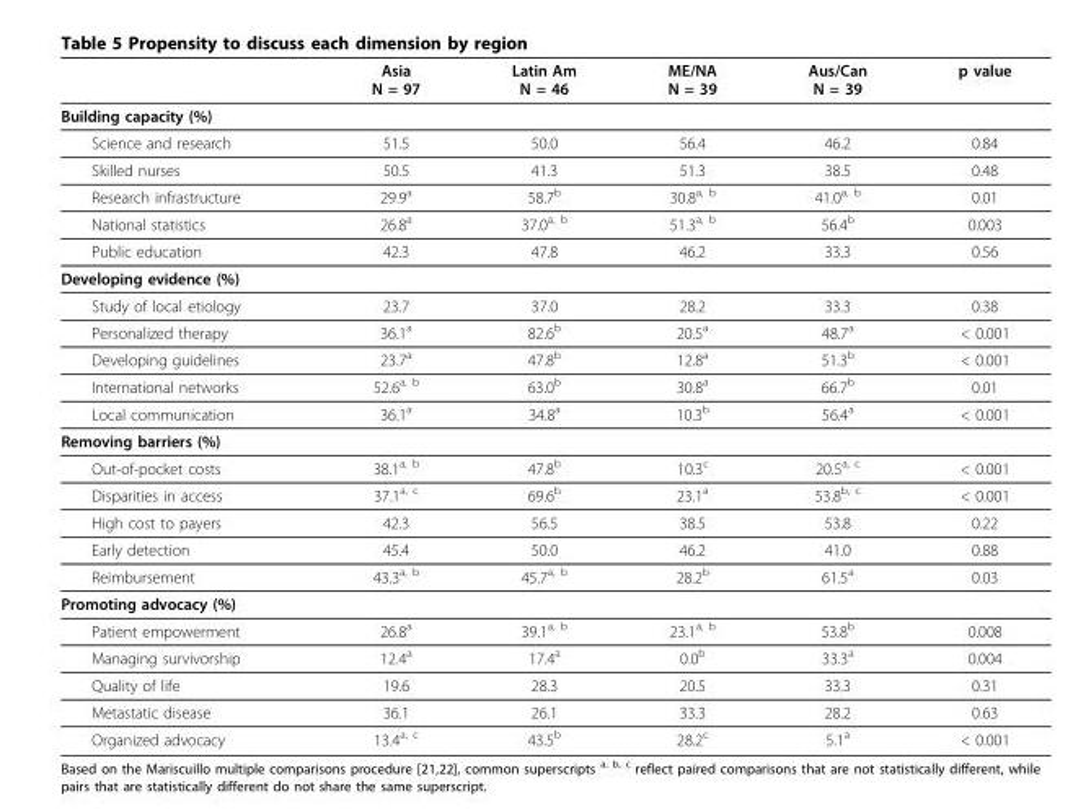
<table><thead><tr><td></td><td>Asia N = 97</td><td>Latin Am N = 46</td><td>ME/NA N = 39</td><td>Aus/Can N = 39</td><td>p value</td></tr></thead><tbody><tr><td colspan="6">Building capacity (%)</td></tr><tr><td>Science and research</td><td>51.5</td><td>50.0</td><td>56.4</td><td>46.2</td><td>0.84</td></tr><tr><td>Skilled nurses</td><td>50.5</td><td>41.3</td><td>51.3</td><td>38.5</td><td>0.48</td></tr><tr><td>Research infrastructure</td><td>29.9<sup>a</sup></td><td>58.7<sup>b</sup></td><td>30.8<sup>a, b</sup></td><td>41.0<sup>a, b</sup></td><td>0.01</td></tr><tr><td>National statistics</td><td>26.8<sup>a</sup></td><td>37.0<sup>a, b</sup></td><td>51.3<sup>a, b</sup></td><td>56.4<sup>b</sup></td><td>0.003</td></tr><tr><td>Public education</td><td>42.3</td><td>47.8</td><td>46.2</td><td>33.3</td><td>0.56</td></tr><tr><td colspan="6">Developing evidence (%)</td></tr><tr><td>Study of local etiology</td><td>23.7</td><td>37.0</td><td>28.2</td><td>33.3</td><td>0.38</td></tr><tr><td>Personalized therapy</td><td>36.1<sup>a</sup></td><td>82.6<sup>b</sup></td><td>20.5<sup>a</sup></td><td>48.7<sup>a</sup></td><td>&lt; 0.001</td></tr><tr><td>Developing guidelines</td><td>23.7<sup>a</sup></td><td>47.8<sup>b</sup></td><td>12.8<sup>a</sup></td><td>51.3<sup>b</sup></td><td>&lt; 0.001</td></tr><tr><td>International networks</td><td>52.6<sup>a, b</sup></td><td>63.0<sup>b</sup></td><td>30.8<sup>a</sup></td><td>66.7<sup>b</sup></td><td>0.01</td></tr><tr><td>Local communication</td><td>36.1<sup>a</sup></td><td>34.8<sup>a</sup></td><td>10.3<sup>b</sup></td><td>56.4<sup>a</sup></td><td>&lt; 0.001</td></tr><tr><td colspan="6">Removing barriers (%)</td></tr><tr><td>Out-of-pocket costs</td><td>38.1<sup>a, b</sup></td><td>47.8<sup>b</sup></td><td>10.3<sup>c</sup></td><td>20.5<sup>a, c</sup></td><td>&lt; 0.001</td></tr><tr><td>Disparities in access</td><td>37.1<sup>a, c</sup></td><td>69.6<sup>b</sup></td><td>23.1<sup>a</sup></td><td>53.8<sup>b, c</sup></td><td>&lt; 0.001</td></tr><tr><td>High cost to payers</td><td>42.3</td><td>56.5</td><td>38.5</td><td>53.8</td><td>0.22</td></tr><tr><td>Early detection</td><td>45.4</td><td>50.0</td><td>46.2</td><td>41.0</td><td>0.88</td></tr><tr><td>Reimbursement</td><td>43.3<sup>a, b</sup></td><td>45.7<sup>a, b</sup></td><td>28.2<sup>b</sup></td><td>61.5<sup>a</sup></td><td>0.03</td></tr><tr><td colspan="6">Promoting advocacy (%)</td></tr><tr><td>Patient empowerment</td><td>26.8<sup>a</sup></td><td>39.1<sup>a, b</sup></td><td>23.1<sup>a, b</sup></td><td>53.8<sup>b</sup></td><td>0.008</td></tr><tr><td>Managing survivorship</td><td>12.4<sup>a</sup></td><td>17.4<sup>a</sup></td><td>0.0<sup>b</sup></td><td>33.3<sup>a</sup></td><td>0.004</td></tr><tr><td>Quality of life</td><td>19.6</td><td>28.3</td><td>20.5</td><td>33.3</td><td>0.31</td></tr><tr><td>Metastatic disease</td><td>36.1</td><td>26.1</td><td>33.3</td><td>28.2</td><td>0.63</td></tr><tr><td>Organized advocacy</td><td>13.4<sup>a, c</sup></td><td>43.5<sup>b</sup></td><td>28.2<sup>c</sup></td><td>5.1<sup>a</sup></td><td>&lt; 0.001</td></tr></tbody></table>